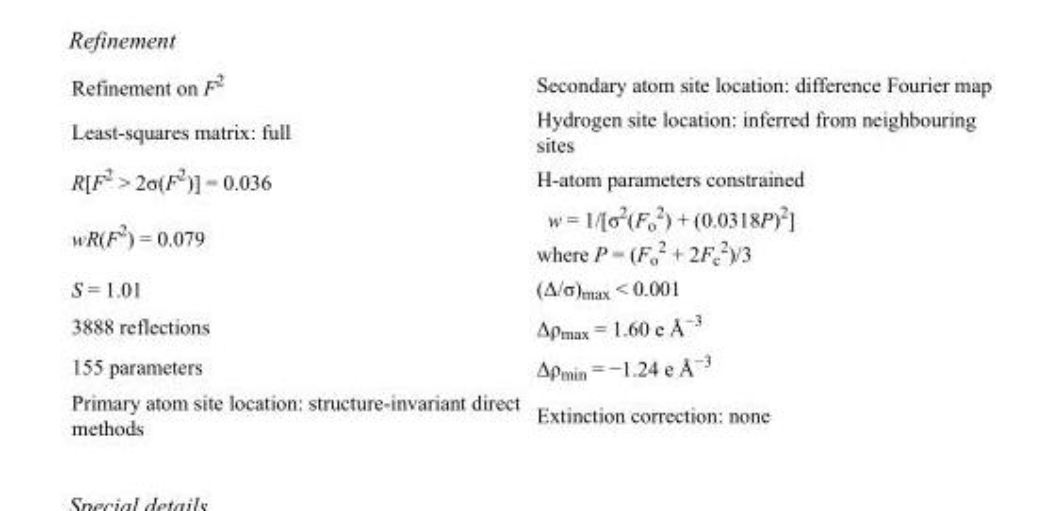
<table><tbody><tr><td>Refinement on F<sup>2</sup></td><td>Secondary atom site location: difference Fourier map</td></tr><tr><td>Least-squares matrix: full</td><td>Hydrogen site location: inferred from neighbouring sites</td></tr><tr><td>R[F<sup>2</sup> &gt; 2σ(F<sup>2</sup>)] = 0.036</td><td>H-atom parameters constrained</td></tr><tr><td>wR(F<sup>2</sup>) = 0.079</td><td>w = 1/[σ<sup>2</sup>(F<sub>o</sub> <sup>2</sup>) + (0.0318P)<sup>2</sup>] where P = (F<sub>o</sub> <sup>2</sup> + 2F<sub>c</sub> <sup>2</sup>)/3</td></tr><tr><td>S = 1.01</td><td>(Δ/σ)<sub>max</sub> &lt; 0.001</td></tr><tr><td>3888 reflections</td><td>Δρ<sub>max</sub> = 1.60 e Å<sup>−3</sup></td></tr><tr><td>155 parameters</td><td>Δρ<sub>min</sub> = −1.24 e Å<sup>−3</sup></td></tr><tr><td>Primary atom site location: structure-invariant direct methods</td><td>Extinction correction: none</td></tr></tbody></table>